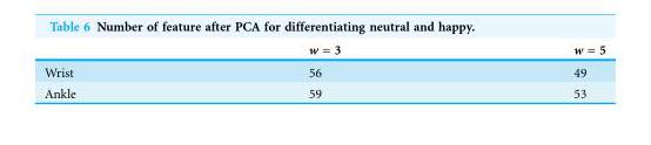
<table><thead><tr><td></td><td>w = 3</td><td>w = 5</td></tr></thead><tbody><tr><td>Wrist</td><td>56</td><td>49</td></tr><tr><td>Ankle</td><td>59</td><td>53</td></tr></tbody></table>